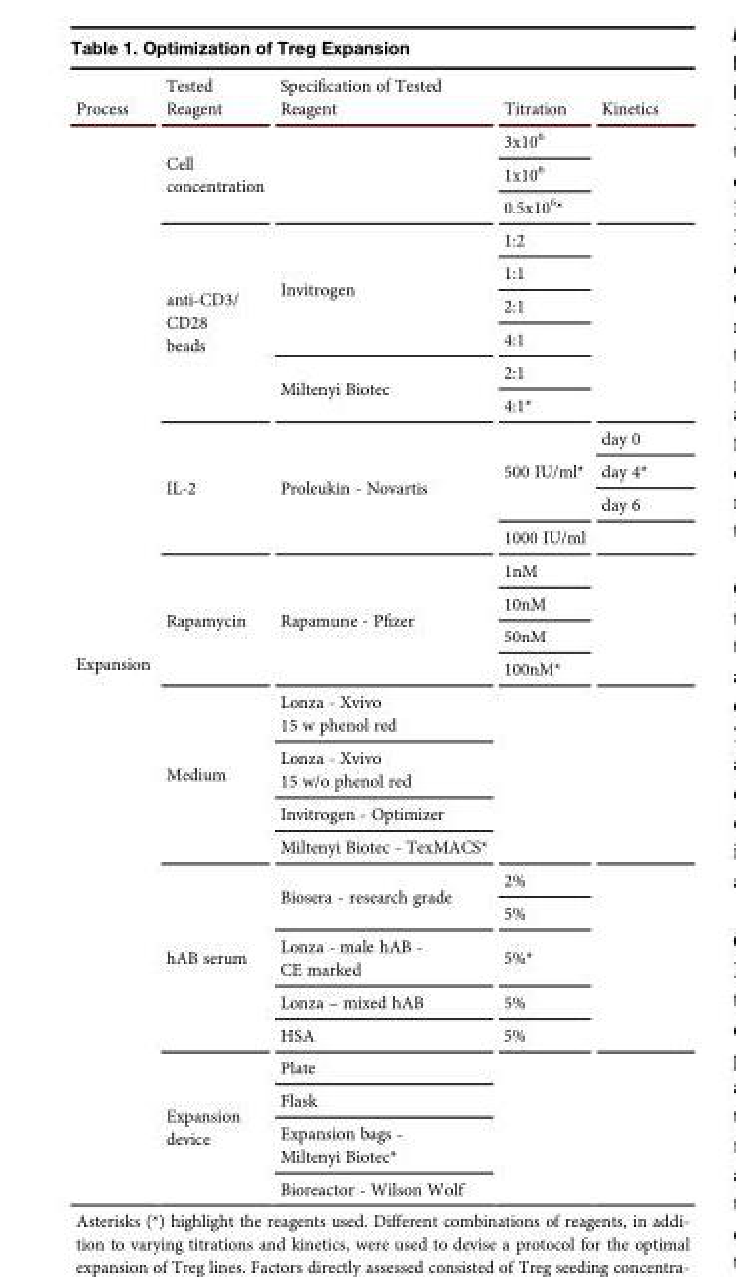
<table><thead><tr><td>Process</td><td>Tested Reagent</td><td>Specification of Tested Reagent</td><td>Titration</td><td>Kinetics</td></tr></thead><tbody><tr><td rowspan="30">Expansion</td><td rowspan="3">Cell concentration</td><td rowspan="3"></td><td>3x10<sup>6</sup></td><td rowspan="3"></td></tr><tr><td>1x10<sup>6</sup></td></tr><tr><td>0.5x106*</td></tr><tr><td rowspan="6">anti-CD3/ CD28 beads</td><td rowspan="4">Invitrogen</td><td>1:2</td><td rowspan="6"></td></tr><tr><td>1:1</td></tr><tr><td>2:1</td></tr><tr><td>4:1</td></tr><tr><td rowspan="2">Miltenyi Biotec</td><td>2:1</td></tr><tr><td>4:1*</td></tr><tr><td rowspan="4">IL-2</td><td rowspan="4">Proleukin - Novartis</td><td rowspan="3">500 IU/ml*</td><td>day 0</td></tr><tr><td>day 4*</td></tr><tr><td>day 6</td></tr><tr><td>1000 IU/ml</td><td></td></tr><tr><td rowspan="4">Rapamycin</td><td rowspan="4">Rapamune - Pfizer</td><td>1nM</td><td rowspan="4"></td></tr><tr><td>10nM</td></tr><tr><td>50nM</td></tr><tr><td>100nM*</td></tr><tr><td rowspan="4">Medium</td><td>Lonza - Xvivo 15 w phenol red</td><td rowspan="4"></td><td rowspan="4"></td></tr><tr><td>Lonza - Xvivo 15 w/o phenol red</td></tr><tr><td>Invitrogen - Optimizer</td></tr><tr><td>Miltenyi Biotec - TexMACS*</td></tr><tr><td rowspan="5">hAB serum</td><td rowspan="2">Biosera - research grade</td><td>2%</td><td rowspan="5"></td></tr><tr><td>5%</td></tr><tr><td>Lonza - male hAB - CE marked</td><td>5%*</td></tr><tr><td>Lonza – mixed hAB</td><td>5%</td></tr><tr><td>HSA</td><td>5%</td></tr><tr><td rowspan="4">Expansion device</td><td>Plate</td><td rowspan="4"></td><td rowspan="4"></td></tr><tr><td>Flask</td></tr><tr><td>Expansion bags - Miltenyi Biotec*</td></tr><tr><td>Bioreactor - Wilson Wolf</td></tr></tbody></table>